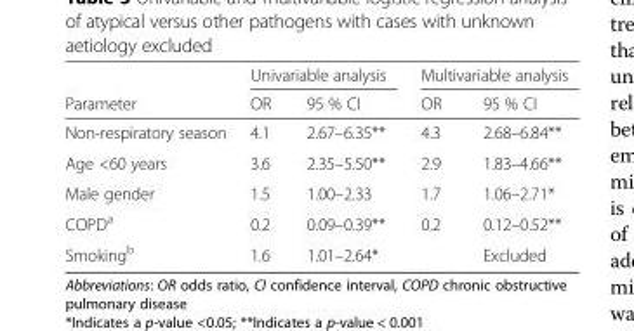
<table><thead><tr><td rowspan="2">Parameter</td><td colspan="2">Univariable analysis</td><td colspan="2">Multivariable analysis</td></tr><tr><td>OR</td><td>95 % CI</td><td>OR</td><td>95 % CI</td></tr></thead><tbody><tr><td>Non-respiratory season</td><td>4.1</td><td>2.67–6.35**</td><td>4.3</td><td>2.68–6.84**</td></tr><tr><td>Age &lt;60 years</td><td>3.6</td><td>2.35–5.50**</td><td>2.9</td><td>1.83–4.66**</td></tr><tr><td>Male gender</td><td>1.5</td><td>1.00–2.33</td><td>1.7</td><td>1.06–2.71*</td></tr><tr><td>COPD<sup>a</sup></td><td>0.2</td><td>0.09–0.39**</td><td>0.2</td><td>0.12–0.52**</td></tr><tr><td>Smoking<sup>b</sup></td><td>1.6</td><td>1.01–2.64*</td><td></td><td>Excluded</td></tr></tbody></table>